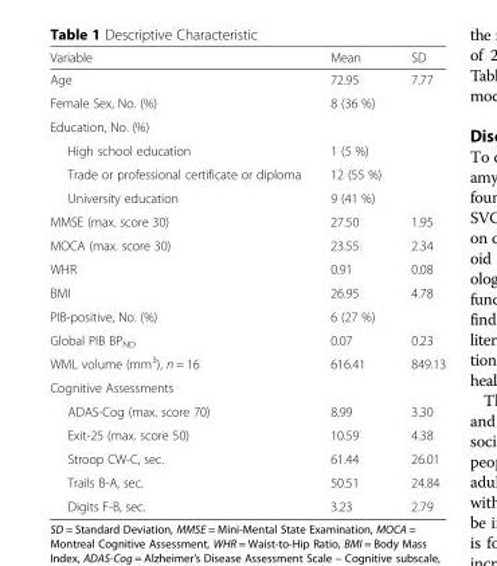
<table><thead><tr><td>Variable</td><td>Mean</td><td>SD</td></tr></thead><tbody><tr><td>Age</td><td>72.95</td><td>7.77</td></tr><tr><td>Female Sex, No. (%)</td><td>8 (36 %)</td><td></td></tr><tr><td colspan="3">Education, No. (%)</td></tr><tr><td>High school education</td><td>1 (5 %)</td><td></td></tr><tr><td>Trade or professional certificate or diploma</td><td>12 (55 %)</td><td></td></tr><tr><td>University education</td><td>9 (41 %)</td><td></td></tr><tr><td>MMSE (max. score 30)</td><td>27.50</td><td>1.95</td></tr><tr><td>MOCA (max. score 30)</td><td>23.55</td><td>2.34</td></tr><tr><td>WHR</td><td>0.91</td><td>0.08</td></tr><tr><td>BMI</td><td>26.95</td><td>4.78</td></tr><tr><td>PIB-positive, No. (%)</td><td>6 (27 %)</td><td></td></tr><tr><td>Global PIB BP<sub>ND</sub></td><td>0.07</td><td>0.23</td></tr><tr><td>WML volume (mm<sup>3</sup>), n = 16</td><td>616.41</td><td>849.13</td></tr><tr><td colspan="3">Cognitive Assessments</td></tr><tr><td>ADAS-Cog (max. score 70)</td><td>8.99</td><td>3.30</td></tr><tr><td>Exit-25 (max. score 50)</td><td>10.59</td><td>4.38</td></tr><tr><td>Stroop CW-C, sec.</td><td>61.44</td><td>26.01</td></tr><tr><td>Trails B-A, sec.</td><td>50.51</td><td>24.84</td></tr><tr><td>Digits F-B, sec.</td><td>3.23</td><td>2.79</td></tr></tbody></table>